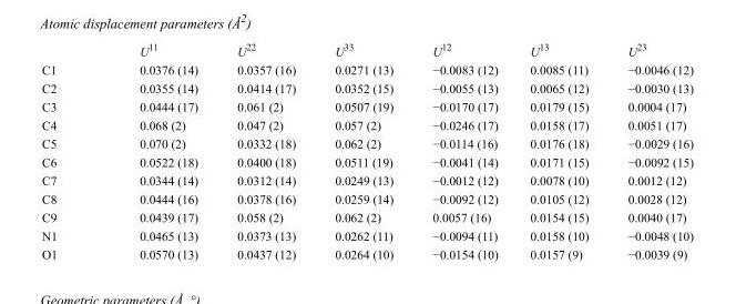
<table><thead><tr><td></td><td>U<sup>11</sup></td><td>U<sup>22</sup></td><td>U<sup>33</sup></td><td>U<sup>12</sup></td><td>U<sup>13</sup></td><td>U<sup>23</sup></td></tr></thead><tbody><tr><td>C1</td><td>0.0376 (14)</td><td>0.0357 (16)</td><td>0.0271 (13)</td><td>−0.0083 (12)</td><td>0.0085 (11)</td><td>−0.0046 (12)</td></tr><tr><td>C2</td><td>0.0355 (14)</td><td>0.0414 (17)</td><td>0.0352 (15)</td><td>−0.0055 (13)</td><td>0.0065 (12)</td><td>−0.0030 (13)</td></tr><tr><td>C3</td><td>0.0444 (17)</td><td>0.061 (2)</td><td>0.0507 (19)</td><td>−0.0170 (17)</td><td>0.0179 (15)</td><td>0.0004 (17)</td></tr><tr><td>C4</td><td>0.068 (2)</td><td>0.047 (2)</td><td>0.057 (2)</td><td>−0.0246 (17)</td><td>0.0158 (17)</td><td>0.0051 (17)</td></tr><tr><td>C5</td><td>0.070 (2)</td><td>0.0332 (18)</td><td>0.062 (2)</td><td>−0.0114 (16)</td><td>0.0176 (18)</td><td>−0.0029 (16)</td></tr><tr><td>C6</td><td>0.0522 (18)</td><td>0.0400 (18)</td><td>0.0511 (19)</td><td>−0.0041 (14)</td><td>0.0171 (15)</td><td>−0.0092 (15)</td></tr><tr><td>C7</td><td>0.0344 (14)</td><td>0.0312 (14)</td><td>0.0249 (13)</td><td>−0.0012 (12)</td><td>0.0078 (10)</td><td>0.0012 (12)</td></tr><tr><td>C8</td><td>0.0444 (16)</td><td>0.0378 (16)</td><td>0.0259 (14)</td><td>−0.0092 (12)</td><td>0.0105 (12)</td><td>0.0028 (12)</td></tr><tr><td>C9</td><td>0.0439 (17)</td><td>0.058 (2)</td><td>0.062 (2)</td><td>0.0057 (16)</td><td>0.0154 (15)</td><td>0.0040 (17)</td></tr><tr><td>N1</td><td>0.0465 (13)</td><td>0.0373 (13)</td><td>0.0262 (11)</td><td>−0.0094 (11)</td><td>0.0158 (10)</td><td>−0.0048 (10)</td></tr><tr><td>O1</td><td>0.0570 (13)</td><td>0.0437 (12)</td><td>0.0264 (10)</td><td>−0.0154 (10)</td><td>0.0157 (9)</td><td>−0.0039 (9)</td></tr></tbody></table>